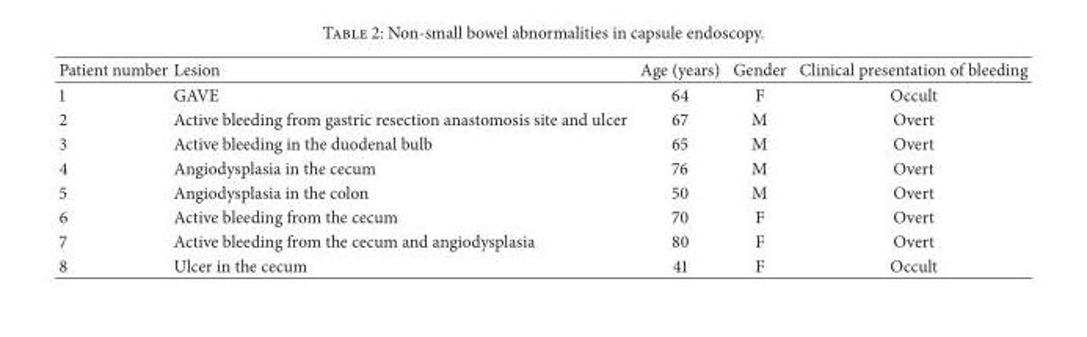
<table><thead><tr><td>Patient number</td><td>Lesion</td><td>Age (years)</td><td>Gender</td><td>Clinical presentation of bleeding</td></tr></thead><tbody><tr><td>1</td><td>GAVE</td><td>64</td><td>F</td><td>Occult</td></tr><tr><td>2</td><td>Active bleeding from gastric resection anastomosis site and ulcer</td><td>67</td><td>M</td><td>Overt</td></tr><tr><td>3</td><td>Active bleeding in the duodenal bulb</td><td>65</td><td>M</td><td>Overt</td></tr><tr><td>4</td><td>Angiodysplasia in the cecum</td><td>76</td><td>M</td><td>Overt</td></tr><tr><td>5</td><td>Angiodysplasia in the colon</td><td>50</td><td>M</td><td>Overt</td></tr><tr><td>6</td><td>Active bleeding from the cecum</td><td>70</td><td>F</td><td>Overt</td></tr><tr><td>7</td><td>Active bleeding from the cecum and angiodysplasia</td><td>80</td><td>F</td><td>Overt</td></tr><tr><td>8</td><td>Ulcer in the cecum</td><td>41</td><td>F</td><td>Occult</td></tr></tbody></table>